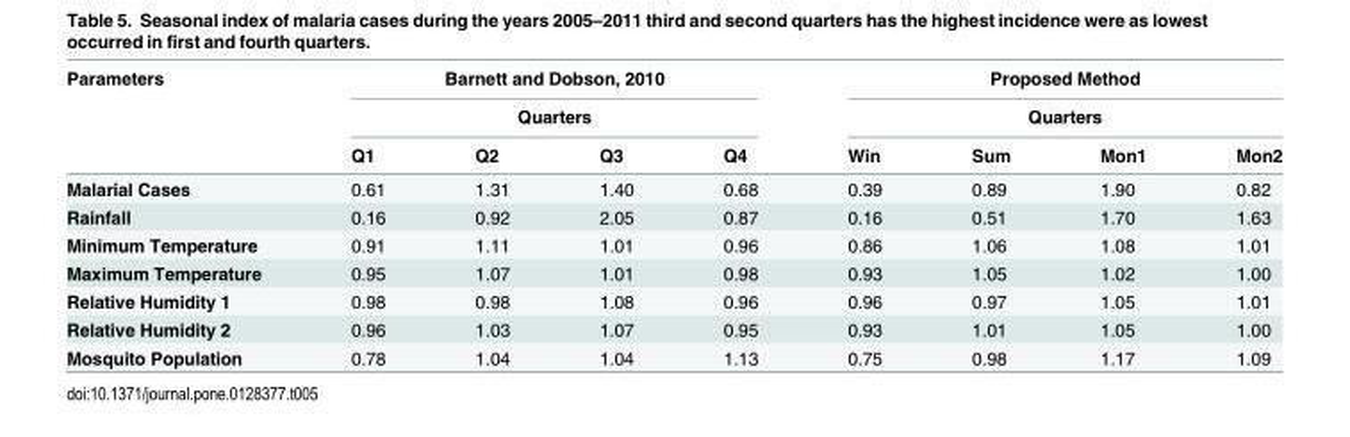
<table><thead><tr><td rowspan="3">Parameters</td><td rowspan="2" colspan="4">Barnett and Dobson, 2010 Quarters</td><td rowspan="2" colspan="4">Proposed Method Quarters</td></tr><tr></tr><tr><td>Q1</td><td>Q2</td><td>Q3</td><td>Q4</td><td>Win</td><td>Sum</td><td>Mon1</td><td>Mon2</td></tr></thead><tbody><tr><td>Malarial Cases</td><td>0.61</td><td>1.31</td><td>1.40</td><td>0.68</td><td>0.39</td><td>0.89</td><td>1.90</td><td>0.82</td></tr><tr><td>Rainfall</td><td>0.16</td><td>0.92</td><td>2.05</td><td>0.87</td><td>0.16</td><td>0.51</td><td>1.70</td><td>1.63</td></tr><tr><td>Minimum Temperature</td><td>0.91</td><td>1.11</td><td>1.01</td><td>0.96</td><td>0.86</td><td>1.06</td><td>1.08</td><td>1.01</td></tr><tr><td>Maximum Temperature</td><td>0.95</td><td>1.07</td><td>1.01</td><td>0.98</td><td>0.93</td><td>1.05</td><td>1.02</td><td>1.00</td></tr><tr><td>Relative Humidity 1</td><td>0.98</td><td>0.98</td><td>1.08</td><td>0.96</td><td>0.96</td><td>0.97</td><td>1.05</td><td>1.01</td></tr><tr><td>Relative Humidity 2</td><td>0.96</td><td>1.03</td><td>1.07</td><td>0.95</td><td>0.93</td><td>1.01</td><td>1.05</td><td>1.00</td></tr><tr><td>Mosquito Population</td><td>0.78</td><td>1.04</td><td>1.04</td><td>1.13</td><td>0.75</td><td>0.98</td><td>1.17</td><td>1.09</td></tr></tbody></table>